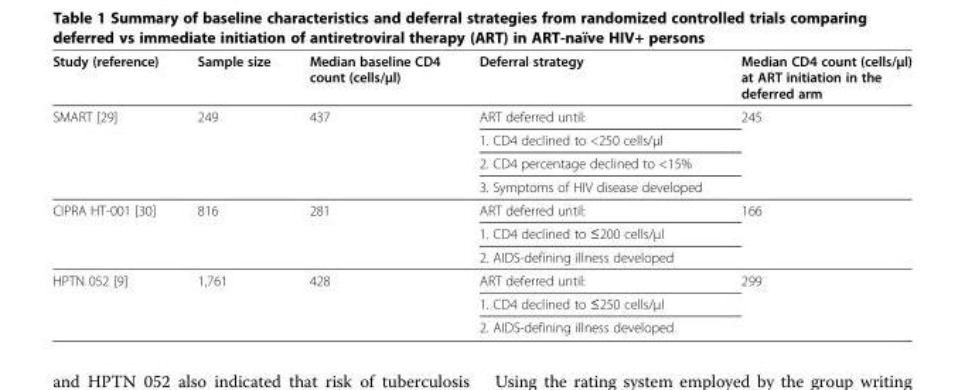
<table><thead><tr><td>Study (reference)</td><td>Sample size</td><td>Median baseline CD4 count (cells/μl)</td><td>Deferral strategy</td><td>Median CD4 count (cells/μl) at ART initiation in the deferred arm</td></tr></thead><tbody><tr><td rowspan="4">SMART [29]</td><td rowspan="4">249</td><td rowspan="4">437</td><td>ART deferred until:</td><td rowspan="4">245</td></tr><tr><td>1. CD4 declined to &lt;250 cells/μl</td></tr><tr><td>2. CD4 percentage declined to &lt;15%</td></tr><tr><td>3. Symptoms of HIV disease developed</td></tr><tr><td rowspan="3">CIPRA HT-001 [30]</td><td rowspan="3">816</td><td rowspan="3">281</td><td>ART deferred until:</td><td rowspan="3">166</td></tr><tr><td>1. CD4 declined to ≤200 cells/μl</td></tr><tr><td>2. AIDS-defining illness developed</td></tr><tr><td rowspan="3">HPTN 052 [9]</td><td rowspan="3">1,761</td><td rowspan="3">428</td><td>ART deferred until:</td><td rowspan="3">299</td></tr><tr><td>1. CD4 declined to ≤250 cells/μl</td></tr><tr><td>2. AIDS-defining illness developed</td></tr></tbody></table>